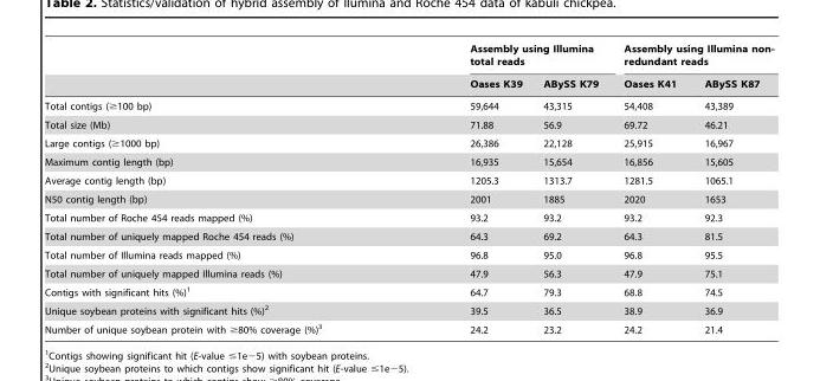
<table><thead><tr><td rowspan="2"></td><td colspan="2">Assembly using Illumina total reads</td><td colspan="2">Assembly using Illumina non- redundant reads</td></tr><tr><td>Oases K39</td><td>ABySS K79</td><td>Oases K41</td><td>ABySS K87</td></tr></thead><tbody><tr><td>Total contigs (≥100 bp)</td><td>59,644</td><td>43,315</td><td>54,408</td><td>43,389</td></tr><tr><td>Total size (Mb)</td><td>71.88</td><td>56.9</td><td>69.72</td><td>46.21</td></tr><tr><td>Large contigs (≥1000 bp)</td><td>26,386</td><td>22,128</td><td>25,915</td><td>16,967</td></tr><tr><td>Maximum contig length (bp)</td><td>16,935</td><td>15,654</td><td>16,856</td><td>15,605</td></tr><tr><td>Average contig length (bp)</td><td>1205.3</td><td>1313.7</td><td>1281.5</td><td>1065.1</td></tr><tr><td>N50 contig length (bp)</td><td>2001</td><td>1885</td><td>2020</td><td>1653</td></tr><tr><td>Total number of Roche 454 reads mapped (%)</td><td>93.2</td><td>93.2</td><td>93.2</td><td>92.3</td></tr><tr><td>Total number of uniquely mapped Roche 454 reads (%)</td><td>64.3</td><td>69.2</td><td>64.3</td><td>81.5</td></tr><tr><td>Total number of Illumina reads mapped (%)</td><td>96.8</td><td>95.0</td><td>96.8</td><td>95.5</td></tr><tr><td>Total number of uniquely mapped Illumina reads (%)</td><td>47.9</td><td>56.3</td><td>47.9</td><td>75.1</td></tr><tr><td>Contigs with significant hits (%)<sup>1</sup></td><td>64.7</td><td>79.3</td><td>68.8</td><td>74.5</td></tr><tr><td>Unique soybean proteins with significant hits (%)<sup>2</sup></td><td>39.5</td><td>36.5</td><td>38.9</td><td>36.9</td></tr><tr><td>Number of unique soybean protein with ≥80% coverage (%)<sup>3</sup></td><td>24.2</td><td>23.2</td><td>24.2</td><td>21.4</td></tr></tbody></table>